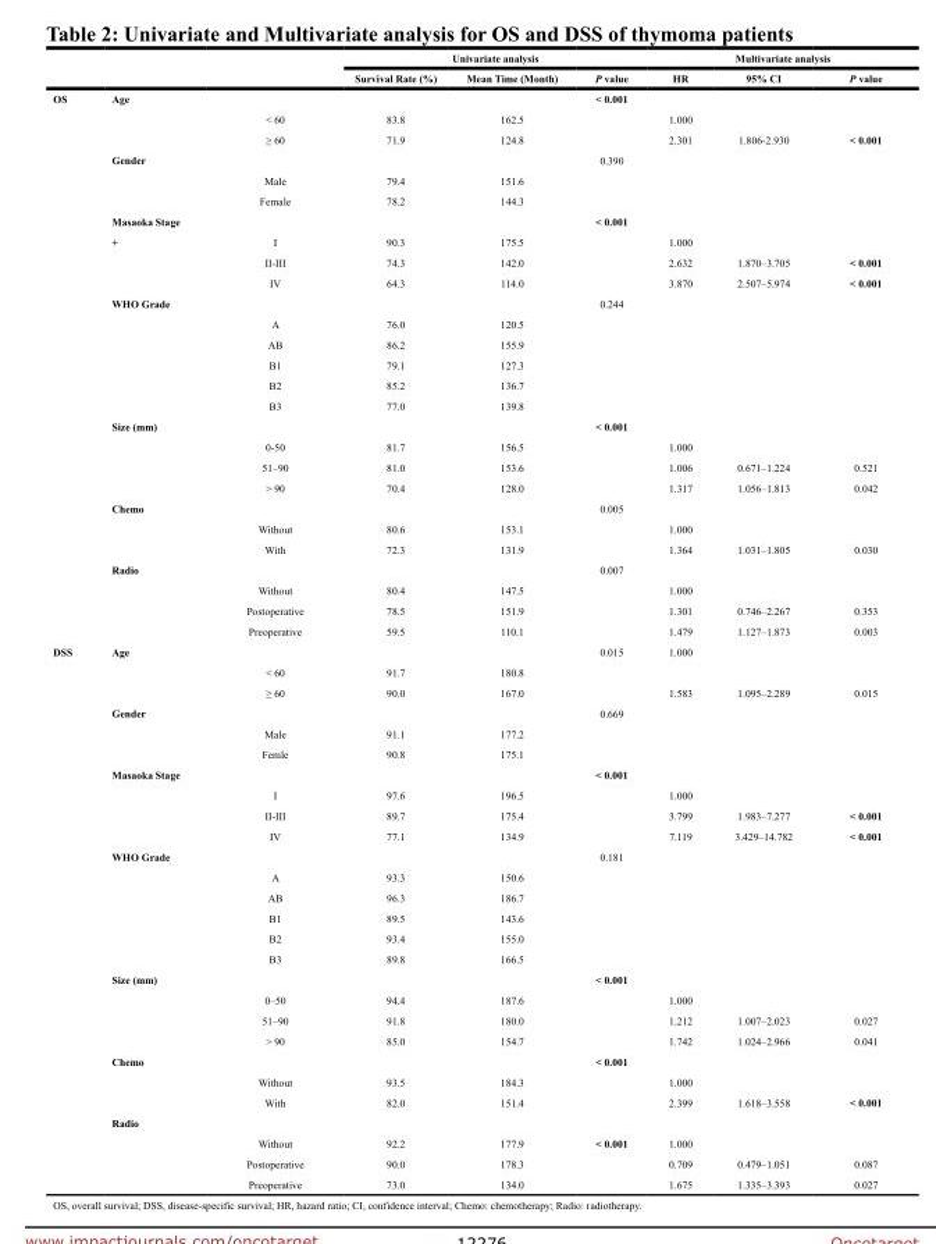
<table><thead><tr><td rowspan="2"></td><td rowspan="2"></td><td rowspan="2"></td><td colspan="3">Univariate analysis</td><td colspan="3">Multivariate analysis</td></tr><tr><td>Survival Rate (%)</td><td>Mean Time (Month)</td><td>P value</td><td>HR</td><td>95% CI</td><td>P value</td></tr></thead><tbody><tr><td rowspan="27">OS</td><td>Age</td><td></td><td></td><td></td><td>&lt; 0.001</td><td></td><td></td><td></td></tr><tr><td></td><td>&lt; 60</td><td>83.8</td><td>162.5</td><td></td><td>1.000</td><td></td><td></td></tr><tr><td></td><td>≥ 60</td><td>71.9</td><td>124.8</td><td></td><td>2.301</td><td>1.806-2.930</td><td>&lt; 0.001</td></tr><tr><td>Gender</td><td></td><td></td><td></td><td>0.390</td><td></td><td></td><td></td></tr><tr><td></td><td>Male</td><td>79.4</td><td>151.6</td><td></td><td></td><td></td><td></td></tr><tr><td></td><td>Female</td><td>78.2</td><td>144.3</td><td></td><td></td><td></td><td></td></tr><tr><td>Masaoka Stage</td><td></td><td></td><td></td><td>&lt; 0.001</td><td></td><td></td><td></td></tr><tr><td>+</td><td>I</td><td>90.3</td><td>175.5</td><td></td><td>1.000</td><td></td><td></td></tr><tr><td></td><td>II-III</td><td>74.3</td><td>142.0</td><td></td><td>2.632</td><td>1.870–3.705</td><td>&lt; 0.001</td></tr><tr><td></td><td>IV</td><td>64.3</td><td>114.0</td><td></td><td>3.870</td><td>2.507–5.974</td><td>&lt; 0.001</td></tr><tr><td>WHO Grade</td><td></td><td></td><td></td><td>0.244</td><td></td><td></td><td></td></tr><tr><td></td><td>A</td><td>76.0</td><td>120.5</td><td></td><td></td><td></td><td></td></tr><tr><td></td><td>AB</td><td>86.2</td><td>155.9</td><td></td><td></td><td></td><td></td></tr><tr><td></td><td>B1</td><td>79.1</td><td>127.3</td><td></td><td></td><td></td><td></td></tr><tr><td></td><td>B2</td><td>85.2</td><td>136.7</td><td></td><td></td><td></td><td></td></tr><tr><td></td><td>B3</td><td>77.0</td><td>139.8</td><td></td><td></td><td></td><td></td></tr><tr><td>Size (mm)</td><td></td><td></td><td></td><td>&lt; 0.001</td><td></td><td></td><td></td></tr><tr><td></td><td>0-50</td><td>81.7</td><td>156.5</td><td></td><td>1.000</td><td></td><td></td></tr><tr><td></td><td>51–90</td><td>81.0</td><td>153.6</td><td></td><td>1.006</td><td>0.671–1.224</td><td>0.521</td></tr><tr><td></td><td>&gt; 90</td><td>70.4</td><td>128.0</td><td></td><td>1.317</td><td>1.056–1.813</td><td>0.042</td></tr><tr><td>Chemo</td><td></td><td></td><td></td><td>0.005</td><td></td><td></td><td></td></tr><tr><td></td><td>Without</td><td>80.6</td><td>153.1</td><td></td><td>1.000</td><td></td><td></td></tr><tr><td></td><td>With</td><td>72.3</td><td>131.9</td><td></td><td>1.364</td><td>1.031–1.805</td><td>0.030</td></tr><tr><td>Radio</td><td></td><td></td><td></td><td>0.007</td><td></td><td></td><td></td></tr><tr><td></td><td>Without</td><td>80.4</td><td>147.5</td><td></td><td>1.000</td><td></td><td></td></tr><tr><td></td><td>Postoperative</td><td>78.5</td><td>151.9</td><td></td><td>1.301</td><td>0.746–2.267</td><td>0.353</td></tr><tr><td></td><td>Preoperative</td><td>59.5</td><td>110.1</td><td></td><td>1.479</td><td>1.127–1.873</td><td>0.003</td></tr><tr><td rowspan="27">DSS</td><td>Age</td><td></td><td></td><td></td><td>0.015</td><td>1.000</td><td></td><td></td></tr><tr><td></td><td>&lt; 60</td><td>91.7</td><td>180.8</td><td></td><td></td><td></td><td></td></tr><tr><td></td><td>≥ 60</td><td>90.0</td><td>167.0</td><td></td><td>1.583</td><td>1.095–2.289</td><td>0.015</td></tr><tr><td>Gender</td><td></td><td></td><td></td><td>0.669</td><td></td><td></td><td></td></tr><tr><td></td><td>Male</td><td>91.1</td><td>177.2</td><td></td><td></td><td></td><td></td></tr><tr><td></td><td>Femle</td><td>90.8</td><td>175.1</td><td></td><td></td><td></td><td></td></tr><tr><td>Masaoka Stage</td><td></td><td></td><td></td><td>&lt; 0.001</td><td></td><td></td><td></td></tr><tr><td></td><td>I</td><td>97.6</td><td>196.5</td><td></td><td>1.000</td><td></td><td></td></tr><tr><td></td><td>II-III</td><td>89.7</td><td>175.4</td><td></td><td>3.799</td><td>1.983–7.277</td><td>&lt; 0.001</td></tr><tr><td></td><td>IV</td><td>77.1</td><td>134.9</td><td></td><td>7.119</td><td>3.429–14.782</td><td>&lt; 0.001</td></tr><tr><td>WHO Grade</td><td></td><td></td><td></td><td>0.181</td><td></td><td></td><td></td></tr><tr><td></td><td>A</td><td>93.3</td><td>150.6</td><td></td><td></td><td></td><td></td></tr><tr><td></td><td>AB</td><td>96.3</td><td>186.7</td><td></td><td></td><td></td><td></td></tr><tr><td></td><td>B1</td><td>89.5</td><td>143.6</td><td></td><td></td><td></td><td></td></tr><tr><td></td><td>B2</td><td>93.4</td><td>155.0</td><td></td><td></td><td></td><td></td></tr><tr><td></td><td>B3</td><td>89.8</td><td>166.5</td><td></td><td></td><td></td><td></td></tr><tr><td>Size (mm)</td><td></td><td></td><td></td><td>&lt; 0.001</td><td></td><td></td><td></td></tr><tr><td></td><td>0–50</td><td>94.4</td><td>187.6</td><td></td><td>1.000</td><td></td><td></td></tr><tr><td></td><td>51–90</td><td>91.8</td><td>180.0</td><td></td><td>1.212</td><td>1.007–2.023</td><td>0.027</td></tr><tr><td></td><td>&gt; 90</td><td>85.0</td><td>154.7</td><td></td><td>1.742</td><td>1.024–2.966</td><td>0.041</td></tr><tr><td>Chemo</td><td></td><td></td><td></td><td>&lt; 0.001</td><td></td><td></td><td></td></tr><tr><td></td><td>Without</td><td>93.5</td><td>184.3</td><td></td><td>1.000</td><td></td><td></td></tr><tr><td></td><td>With</td><td>82.0</td><td>151.4</td><td></td><td>2.399</td><td>1.618–3.558</td><td>&lt; 0.001</td></tr><tr><td>Radio</td><td></td><td></td><td></td><td></td><td></td><td></td><td></td></tr><tr><td></td><td>Without</td><td>92.2</td><td>177.9</td><td>&lt; 0.001</td><td>1.000</td><td></td><td></td></tr><tr><td></td><td>Postoperative</td><td>90.0</td><td>178.3</td><td></td><td>0.709</td><td>0.479–1.051</td><td>0.087</td></tr><tr><td></td><td>Preoperative</td><td>73.0</td><td>134.0</td><td></td><td>1.675</td><td>1.335–3.393</td><td>0.027</td></tr></tbody></table>